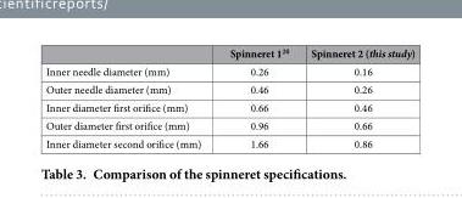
<table><thead><tr><td></td><td>Spinneret 1<sup>20</sup></td><td>Spinneret 2 (this study)</td></tr></thead><tbody><tr><td>Inner needle diameter (mm)</td><td>0.26</td><td>0.16</td></tr><tr><td>Outer needle diameter (mm)</td><td>0.46</td><td>0.26</td></tr><tr><td>Inner diameter first orifice (mm)</td><td>0.66</td><td>0.46</td></tr><tr><td>Outer diameter first orifice (mm)</td><td>0.96</td><td>0.66</td></tr><tr><td>Inner diameter second orifice (mm)</td><td>1.66</td><td>0.86</td></tr></tbody></table>